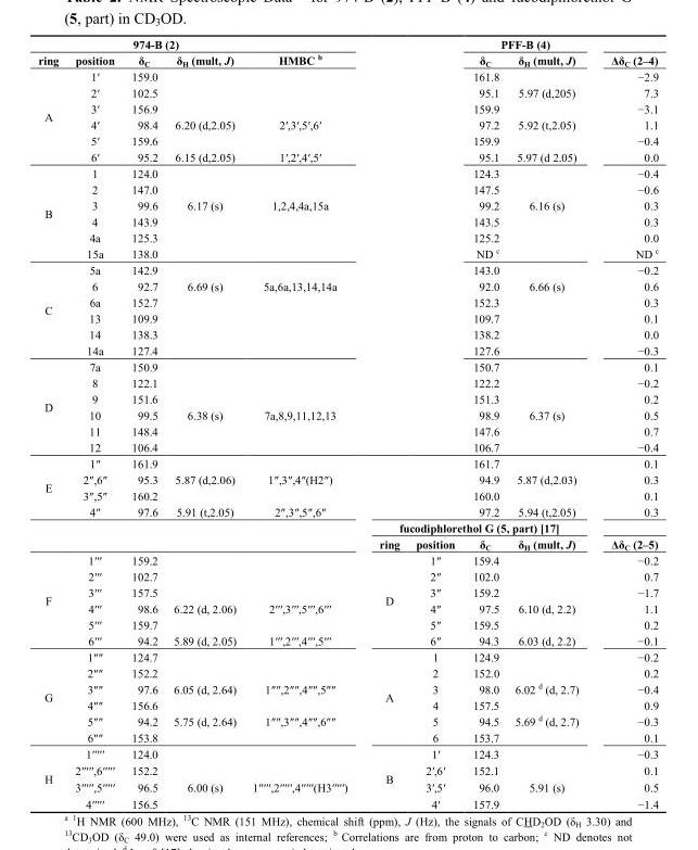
<table><thead><tr><td rowspan="2">ring</td><td colspan="3">974-B (2)</td><td rowspan="2">HMBC <sup>b</sup></td><td rowspan="2"></td><td rowspan="2"></td><td colspan="2">PFF-B (4)</td><td rowspan="2">Δδ<sub>C</sub> (2–4)</td></tr><tr><td>position</td><td>δ<sub>C</sub></td><td>δH (mult, J)</td><td>δC</td><td>δH (mult, J)</td></tr></thead><tbody><tr><td rowspan="6">A</td><td>1′</td><td>159.0</td><td></td><td></td><td></td><td></td><td>161.8</td><td></td><td>−2.9</td></tr><tr><td>2′</td><td>102.5</td><td></td><td></td><td></td><td></td><td>95.1</td><td>5.97 (d,205)</td><td>7.3</td></tr><tr><td>3′</td><td>156.9</td><td></td><td></td><td></td><td></td><td>159.9</td><td></td><td>−3.1</td></tr><tr><td>4′</td><td>98.4</td><td>6.20 (d,2.05)</td><td>2′,3′,5′,6′</td><td></td><td></td><td>97.2</td><td>5.92 (t,2.05)</td><td>1.1</td></tr><tr><td>5′</td><td>159.6</td><td></td><td></td><td></td><td></td><td>159.9</td><td></td><td>−0.4</td></tr><tr><td>6′</td><td>95.2</td><td>6.15 (d,2.05)</td><td>1′,2′,4′,5′</td><td></td><td></td><td>95.1</td><td>5.97 (d 2.05)</td><td>0.0</td></tr><tr><td rowspan="6">B</td><td>1</td><td>124.0</td><td></td><td></td><td></td><td></td><td>124.3</td><td></td><td>−0.4</td></tr><tr><td>2</td><td>147.0</td><td></td><td></td><td></td><td></td><td>147.5</td><td></td><td>−0.6</td></tr><tr><td>3</td><td>99.6</td><td>6.17 (s)</td><td>1,2,4,4a,15a</td><td></td><td></td><td>99.2</td><td>6.16 (s)</td><td>0.3</td></tr><tr><td>4</td><td>143.9</td><td></td><td></td><td></td><td></td><td>143.5</td><td></td><td>0.3</td></tr><tr><td>4a</td><td>125.3</td><td></td><td></td><td></td><td></td><td>125.2</td><td></td><td>0.0</td></tr><tr><td>15a</td><td>138.0</td><td></td><td></td><td></td><td></td><td>ND <sup>c</sup></td><td></td><td>ND <sup>c</sup></td></tr><tr><td rowspan="6">C</td><td>5a</td><td>142.9</td><td></td><td></td><td></td><td></td><td>143.0</td><td></td><td>−0.2</td></tr><tr><td>6</td><td>92.7</td><td>6.69 (s)</td><td>5a,6a,13,14,14a</td><td></td><td></td><td>92.0</td><td>6.66 (s)</td><td>0.6</td></tr><tr><td>6a</td><td>152.7</td><td></td><td></td><td></td><td></td><td>152.3</td><td></td><td>0.3</td></tr><tr><td>13</td><td>109.9</td><td></td><td></td><td></td><td></td><td>109.7</td><td></td><td>0.1</td></tr><tr><td>14</td><td>138.3</td><td></td><td></td><td></td><td></td><td>138.2</td><td></td><td>0.0</td></tr><tr><td>14a</td><td>127.4</td><td></td><td></td><td></td><td></td><td>127.6</td><td></td><td>−0.3</td></tr><tr><td rowspan="6">D</td><td>7a</td><td>150.9</td><td></td><td></td><td></td><td></td><td>150.7</td><td></td><td>0.1</td></tr><tr><td>8</td><td>122.1</td><td></td><td></td><td></td><td></td><td>122.2</td><td></td><td>−0.2</td></tr><tr><td>9</td><td>151.6</td><td></td><td></td><td></td><td></td><td>151.3</td><td></td><td>0.2</td></tr><tr><td>10</td><td>99.5</td><td>6.38 (s)</td><td>7a,8,9,11,12,13</td><td></td><td></td><td>98.9</td><td>6.37 (s)</td><td>0.5</td></tr><tr><td>11</td><td>148.4</td><td></td><td></td><td></td><td></td><td>147.6</td><td></td><td>0.7</td></tr><tr><td>12</td><td>106.4</td><td></td><td></td><td></td><td></td><td>106.7</td><td></td><td>−0.4</td></tr><tr><td rowspan="4">E</td><td>1″</td><td>161.9</td><td></td><td></td><td></td><td></td><td>161.7</td><td></td><td>0.1</td></tr><tr><td>2″,6″</td><td>95.3</td><td>5.87 (d,2.06)</td><td>1″,3″,4″(H2″)</td><td></td><td></td><td>94.9</td><td>5.87 (d,2.03)</td><td>0.3</td></tr><tr><td>3″,5″</td><td>160.2</td><td></td><td></td><td></td><td></td><td>160.0</td><td></td><td>0.1</td></tr><tr><td>4″</td><td>97.6</td><td>5.91 (t,2.05)</td><td>2″,3″,5″,6″</td><td></td><td></td><td>97.2</td><td>5.94 (t,2.05)</td><td>0.3</td></tr><tr><td rowspan="2" colspan="5"></td><td colspan="4">fucodiphlorethol G (5, part) [17]</td><td></td></tr><tr><td>ring</td><td>position</td><td>δ<sub>C</sub></td><td>δ<sub>H</sub> (mult, J)</td><td>Δδ<sub>C</sub> (2–5)</td></tr><tr><td rowspan="6">F</td><td>1′′′</td><td>159.2</td><td></td><td></td><td rowspan="6">D</td><td>1″</td><td>159.4</td><td></td><td>−0.2</td></tr><tr><td>2′′′</td><td>102.7</td><td></td><td></td><td>2″</td><td>102.0</td><td></td><td>0.7</td></tr><tr><td>3′′′</td><td>157.5</td><td></td><td></td><td>3″</td><td>159.2</td><td></td><td>−1.7</td></tr><tr><td>4′′′</td><td>98.6</td><td>6.22 (d, 2.06)</td><td>2′′′,3′′′,5′′′,6′′′</td><td>4″</td><td>97.5</td><td>6.10 (d, 2.2)</td><td>1.1</td></tr><tr><td>5′′′</td><td>159.7</td><td></td><td></td><td>5″</td><td>159.5</td><td></td><td>0.2</td></tr><tr><td>6′′′</td><td>94.2</td><td>5.89 (d, 2.05)</td><td>1′′′,2′′′,4′′′,5′′′</td><td>6″</td><td>94.3</td><td>6.03 (d, 2.2)</td><td>−0.1</td></tr><tr><td rowspan="6">G</td><td>1″″</td><td>124.7</td><td></td><td></td><td rowspan="6">A</td><td>1</td><td>124.9</td><td></td><td>−0.2</td></tr><tr><td>2″″</td><td>152.2</td><td></td><td></td><td>2</td><td>152.0</td><td></td><td>0.2</td></tr><tr><td>3″″</td><td>97.6</td><td>6.05 (d, 2.64)</td><td>1″″,2″″,4″″,5″″</td><td>3</td><td>98.0</td><td>6.02 <sup>d</sup> (d, 2.7)</td><td>−0.4</td></tr><tr><td>4″″</td><td>156.6</td><td></td><td></td><td>4</td><td>157.5</td><td></td><td>0.9</td></tr><tr><td>5″″</td><td>94.2</td><td>5.75 (d, 2.64)</td><td>1″″,3″″,4″″,6″″</td><td>5</td><td>94.5</td><td>5.69 <sup>d</sup> (d, 2.7)</td><td>−0.3</td></tr><tr><td>6″″</td><td>153.8</td><td></td><td></td><td>6</td><td>153.7</td><td></td><td>0.1</td></tr><tr><td rowspan="4">H</td><td>1′′′′′</td><td>124.0</td><td></td><td></td><td rowspan="4">B</td><td>1′</td><td>124.3</td><td></td><td>−0.3</td></tr><tr><td>2′′′′′,6′′′′′</td><td>152.2</td><td></td><td></td><td>2′,6′</td><td>152.1</td><td></td><td>0.1</td></tr><tr><td>3′′′′′,5′′′′′</td><td>96.5</td><td>6.00 (s)</td><td>1′′′′′,2′′′′′,4′′′′′(H3′′′′′)</td><td>3′,5′</td><td>96.0</td><td>5.91 (s)</td><td>0.5</td></tr><tr><td>4′′′′′</td><td>156.5</td><td></td><td></td><td>4′</td><td>157.9</td><td></td><td>−1.4</td></tr></tbody></table>